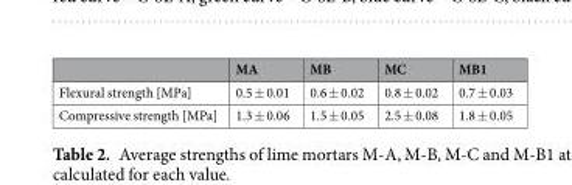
<table><thead><tr><td></td><td>MA</td><td>MB</td><td>MC</td><td>MB1</td></tr></thead><tbody><tr><td>Flexural strength [MPa]</td><td>0.5 ± 0.01</td><td>0.6 ± 0.02</td><td>0.8 ± 0.02</td><td>0.7 ± 0.03</td></tr><tr><td>Compressive strength [MPa]</td><td>1.3 ± 0.06</td><td>1.5 ± 0.05</td><td>2.5 ± 0.08</td><td>1.8 ± 0.05</td></tr></tbody></table>